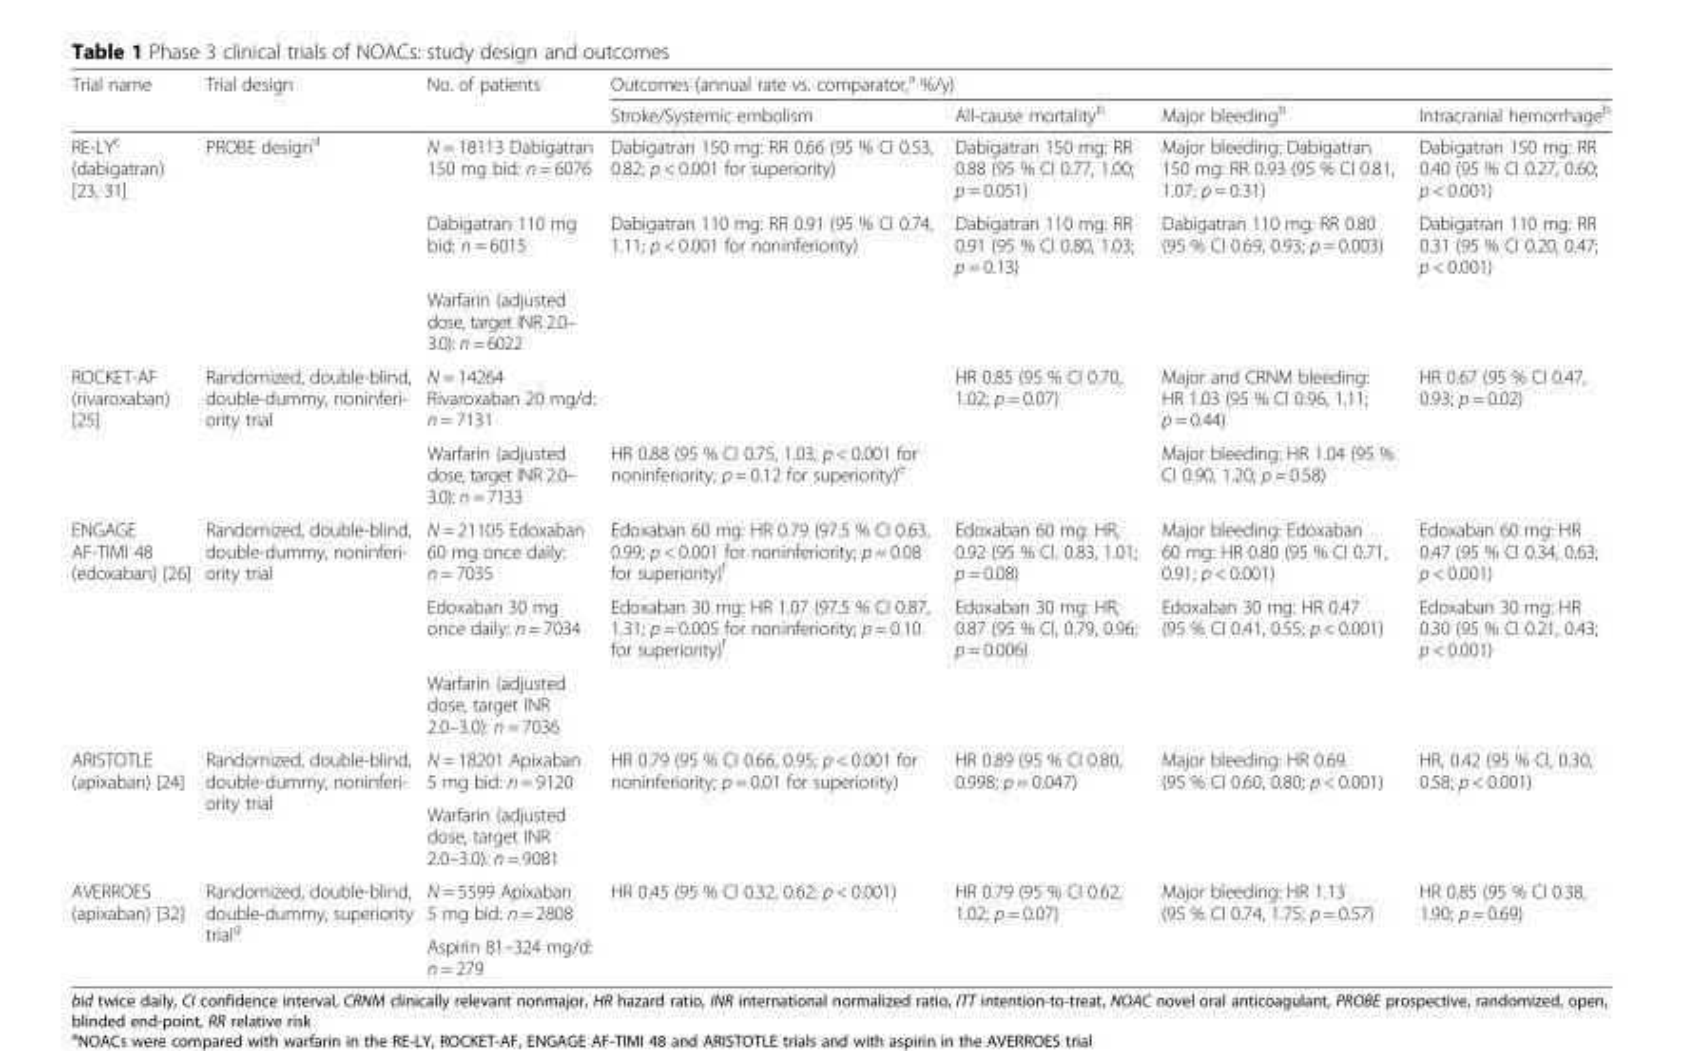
<table><thead><tr><td rowspan="2">Trial name</td><td rowspan="2">Trial design</td><td rowspan="2">No. of patients</td><td colspan="4">Outcomes (annual rate vs. comparator,<sup>a</sup> %/y)</td></tr><tr><td>Stroke/Systemic embolism</td><td>All-cause mortality<sup>b</sup></td><td>Major bleeding<sup>b</sup></td><td>Intracranial hemorrhage<sup>b</sup></td></tr></thead><tbody><tr><td rowspan="3">RE-LY<sup>c</sup> (dabigatran) [23, 31]</td><td rowspan="3">PROBE design<sup>d</sup></td><td>N = 18113 Dabigatran 150 mg bid: n = 6076</td><td>Dabigatran 150 mg: RR 0.66 (95 % CI 0.53, 0.82; p &lt; 0.001 for superiority)</td><td>Dabigatran 150 mg: RR 0.88 (95 % CI 0.77, 1.00; p = 0.051)</td><td>Major bleeding: Dabigatran 150 mg: RR 0.93 (95 % CI 0.81, 1.07; p = 0.31)</td><td>Dabigatran 150 mg: RR 0.40 (95 % CI 0.27, 0.60; p &lt; 0.001)</td></tr><tr><td>Dabigatran 110 mg bid: n = 6015</td><td>Dabigatran 110 mg: RR 0.91 (95 % CI 0.74, 1.11; p &lt; 0.001 for noninferiority)</td><td>Dabigatran 110 mg: RR 0.91 (95 % CI 0.80, 1.03; p = 0.13)</td><td>Dabigatran 110 mg: RR 0.80 (95 % CI 0.69, 0.93; p = 0.003)</td><td>Dabigatran 110 mg: RR 0.31 (95 % CI 0.20, 0.47; p &lt; 0.001)</td></tr><tr><td>Warfarin (adjusted dose, target INR 2.0– 3.0): n = 6022</td><td></td><td></td><td></td><td></td></tr><tr><td rowspan="2">ROCKET-AF (rivaroxaban) [25]</td><td rowspan="2">Randomized, double-blind, double-dummy, noninferi- ority trial</td><td>N = 14264 Rivaroxaban 20 mg/d: n = 7131</td><td></td><td>HR 0.85 (95 % CI 0.70, 1.02; p = 0.07)</td><td>Major and CRNM bleeding: HR 1.03 (95 % CI 0.96, 1.11; p = 0.44)</td><td>HR 0.67 (95 % CI 0.47, 0.93; p = 0.02)</td></tr><tr><td>Warfarin (adjusted dose, target INR 2.0– 3.0): n = 7133</td><td>HR 0.88 (95 % CI 0.75, 1.03; p &lt; 0.001 for noninferiority; p = 0.12 for superiority)<sup>e</sup></td><td></td><td>Major bleeding: HR 1.04 (95 % CI 0.90, 1.20; p = 0.58)</td><td></td></tr><tr><td rowspan="3">ENGAGE AF-TIMI 48 (edoxaban) [26]</td><td rowspan="3">Randomized, double-blind, double-dummy, noninferi- ority trial</td><td>N = 21105 Edoxaban 60 mg once daily: n = 7035</td><td>Edoxaban 60 mg: HR 0.79 (97.5 % CI 0.63, 0.99; p &lt; 0.001 for noninferiority; p = 0.08 for superiority)<sup>f</sup></td><td>Edoxaban 60 mg: HR, 0.92 (95 % CI. 0.83, 1.01; p = 0.08)</td><td>Major bleeding: Edoxaban 60 mg: HR 0.80 (95 % CI 0.71, 0.91; p &lt; 0.001)</td><td>Edoxaban 60 mg: HR 0.47 (95 % CI 0.34, 0.63; p &lt; 0.001)</td></tr><tr><td>Edoxaban 30 mg once daily: n = 7034</td><td>Edoxaban 30 mg: HR 1.07 (97.5 % CI 0.87, 1.31; p = 0.005 for noninferiority; p = 0.10 for superiority)<sup>f</sup></td><td>Edoxaban 30 mg: HR, 0.87 (95 % CI, 0.79, 0.96; p = 0.006)</td><td>Edoxaban 30 mg: HR 0.47 (95 % CI 0.41, 0.55; p &lt; 0.001)</td><td>Edoxaban 30 mg: HR 0.30 (95 % CI 0.21, 0.43; p &lt; 0.001)</td></tr><tr><td>Warfarin (adjusted dose, target INR 2.0–3.0): n = 7036</td><td></td><td></td><td></td><td></td></tr><tr><td rowspan="2">ARISTOTLE (apixaban) [24]</td><td rowspan="2">Randomized, double-blind, double-dummy, noninferi- ority trial</td><td>N = 18201 Apixaban 5 mg bid: n = 9120</td><td>HR 0.79 (95 % CI 0.66, 0.95; p &lt; 0.001 for noninferiority; p = 0.01 for superiority)</td><td>HR 0.89 (95 % CI 0.80, 0.998; p = 0.047)</td><td>Major bleeding: HR 0.69 (95 % CI 0.60, 0.80; p &lt; 0.001)</td><td>HR, 0.42 (95 % CI, 0.30, 0.58; p &lt; 0.001)</td></tr><tr><td>Warfarin (adjusted dose, target INR 2.0–3.0): n = 9081</td><td></td><td></td><td></td><td></td></tr><tr><td rowspan="2">AVERROES (apixaban) [32]</td><td rowspan="2">Randomized, double-blind, double-dummy, superiority trial<sup>g</sup></td><td>N = 5599 Apixaban 5 mg bid: n = 2808</td><td>HR 0.45 (95 % CI 0.32, 0.62; p &lt; 0.001)</td><td>HR 0.79 (95 % CI 0.62, 1.02; p = 0.07)</td><td>Major bleeding: HR 1.13 (95 % CI 0.74, 1.75; p = 0.57)</td><td>HR 0.85 (95 % CI 0.38, 1.90; p = 0.69)</td></tr><tr><td>Aspirin 81–324 mg/d: n = 279</td><td></td><td></td><td></td><td></td></tr></tbody></table>